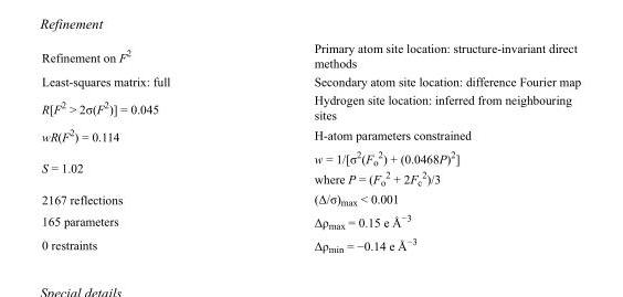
<table><tbody><tr><td>Refinement on F<sup>2</sup></td><td>Primary atom site location: structure-invariant direct methods</td></tr><tr><td>Least-squares matrix: full</td><td>Secondary atom site location: difference Fourier map</td></tr><tr><td>R[F<sup>2</sup> &gt; 2σ(F<sup>2</sup>)] = 0.045</td><td>Hydrogen site location: inferred from neighbouring sites</td></tr><tr><td>wR(F<sup>2</sup>) = 0.114</td><td>H-atom parameters constrained</td></tr><tr><td>S = 1.02</td><td>w = 1/[σ<sup>2</sup>(F<sub>o</sub> <sup>2</sup>) + (0.0468P)<sup>2</sup>] where P = (F<sub>o</sub> <sup>2</sup> + 2F<sub>c</sub> <sup>2</sup>)/3</td></tr><tr><td>2167 reflections</td><td>(Δ/σ)<sub>max</sub> &lt; 0.001</td></tr><tr><td>165 parameters</td><td>Δρ<sub>max</sub> = 0.15 e Å<sup>−3</sup></td></tr><tr><td>0 restraints</td><td>Δρ<sub>min</sub> = −0.14 e Å<sup>−3</sup></td></tr></tbody></table>